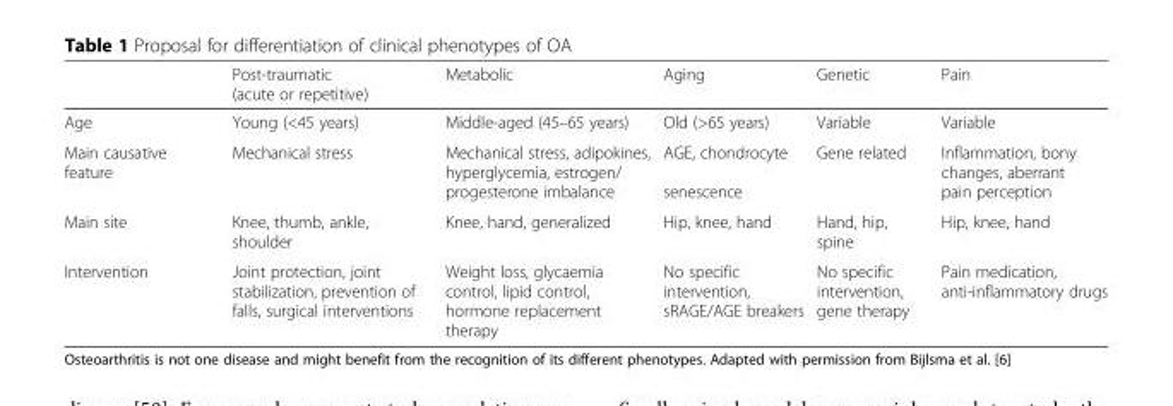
<table><thead><tr><td></td><td>Post-traumatic (acute or repetitive)</td><td>Metabolic</td><td>Aging</td><td>Genetic</td><td>Pain</td></tr></thead><tbody><tr><td>Age</td><td>Young (&lt;45 years)</td><td>Middle-aged (45–65 years)</td><td>Old (&gt;65 years)</td><td>Variable</td><td>Variable</td></tr><tr><td>Main causative feature</td><td>Mechanical stress</td><td>Mechanical stress, adipokines, hyperglycemia, estrogen/ progesterone imbalance</td><td>AGE, chondrocyte senescence</td><td>Gene related</td><td>Inflammation, bony changes, aberrant pain perception</td></tr><tr><td>Main site</td><td>Knee, thumb, ankle, shoulder</td><td>Knee, hand, generalized</td><td>Hip, knee, hand</td><td>Hand, hip, spine</td><td>Hip, knee, hand</td></tr><tr><td>Intervention</td><td>Joint protection, joint stabilization, prevention of falls, surgical interventions</td><td>Weight loss, glycaemia control, lipid control, hormone replacement therapy</td><td>No specific intervention, sRAGE/AGE breakers</td><td>No specific intervention, gene therapy</td><td>Pain medication, anti-inflammatory drugs</td></tr></tbody></table>